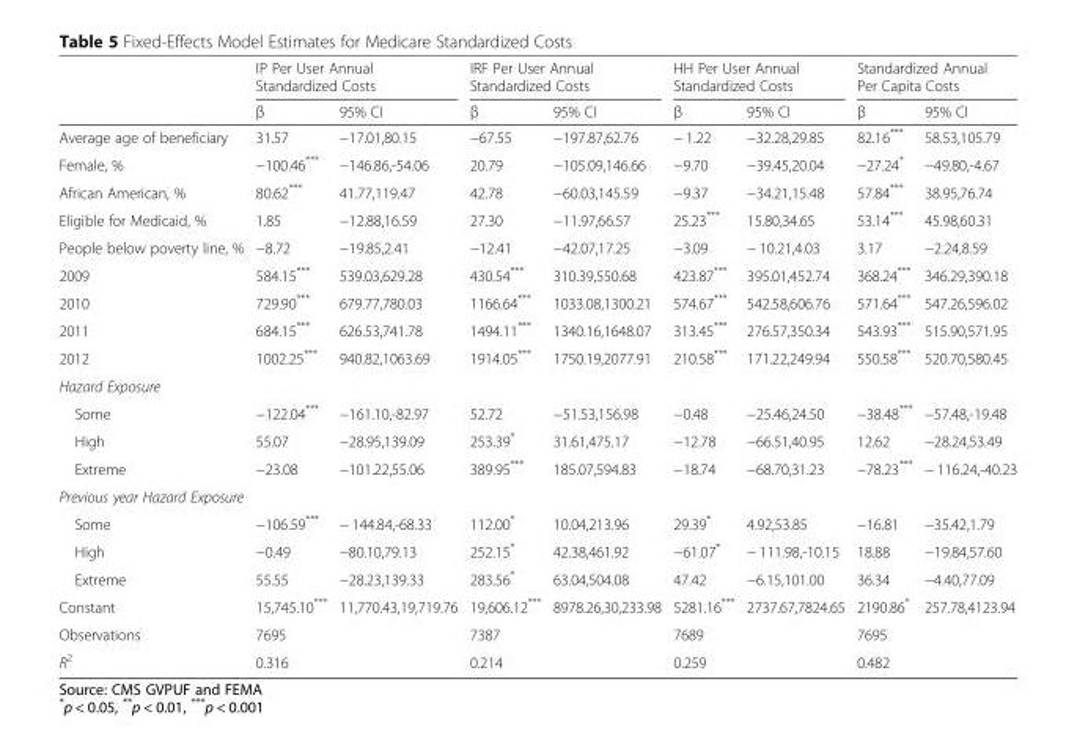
<table><thead><tr><td rowspan="2"></td><td colspan="2">IP Per User Annual Standardized Costs</td><td colspan="2">IRF Per User Annual Standardized Costs</td><td colspan="2">HH Per User Annual Standardized Costs</td><td colspan="2">Standardized Annual Per Capita Costs</td></tr><tr><td>β</td><td>95% CI</td><td>β</td><td>95% CI</td><td>β</td><td>95% CI</td><td>β</td><td>95% CI</td></tr></thead><tbody><tr><td>Average age of beneficiary</td><td>31.57</td><td>−17.01,80.15</td><td>−67.55</td><td>−197.87,62.76</td><td>− 1.22</td><td>−32.28,29.85</td><td>82.16***</td><td>58.53,105.79</td></tr><tr><td>Female, %</td><td>−100.46***</td><td>−146.86,-54.06</td><td>20.79</td><td>−105.09,146.66</td><td>−9.70</td><td>−39.45,20.04</td><td>−27.24*</td><td>−49.80,-4.67</td></tr><tr><td>African American, %</td><td>80.62***</td><td>41.77,119.47</td><td>42.78</td><td>−60.03,145.59</td><td>−9.37</td><td>−34.21,15.48</td><td>57.84***</td><td>38.95,76.74</td></tr><tr><td>Eligible for Medicaid, %</td><td>1.85</td><td>−12.88,16.59</td><td>27.30</td><td>−11.97,66.57</td><td>25.23***</td><td>15.80,34.65</td><td>53.14***</td><td>45.98,60.31</td></tr><tr><td>People below poverty line, %</td><td>−8.72</td><td>−19.85,2.41</td><td>−12.41</td><td>−42.07,17.25</td><td>−3.09</td><td>− 10.21,4.03</td><td>3.17</td><td>−2.24,8.59</td></tr><tr><td>2009</td><td>584.15***</td><td>539.03,629.28</td><td>430.54***</td><td>310.39,550.68</td><td>423.87***</td><td>395.01,452.74</td><td>368.24***</td><td>346.29,390.18</td></tr><tr><td>2010</td><td>729.90***</td><td>679.77,780.03</td><td>1166.64***</td><td>1033.08,1300.21</td><td>574.67***</td><td>542.58,606.76</td><td>571.64***</td><td>547.26,596.02</td></tr><tr><td>2011</td><td>684.15***</td><td>626.53,741.78</td><td>1494.11***</td><td>1340.16,1648.07</td><td>313.45***</td><td>276.57,350.34</td><td>543.93***</td><td>515.90,571.95</td></tr><tr><td>2012</td><td>1002.25***</td><td>940.82,1063.69</td><td>1914.05***</td><td>1750.19,2077.91</td><td>210.58***</td><td>171.22,249.94</td><td>550.58***</td><td>520.70,580.45</td></tr><tr><td colspan="9">Hazard Exposure</td></tr><tr><td>Some</td><td>−122.04***</td><td>−161.10,-82.97</td><td>52.72</td><td>−51.53,156.98</td><td>−0.48</td><td>−25.46,24.50</td><td>−38.48***</td><td>−57.48,-19.48</td></tr><tr><td>High</td><td>55.07</td><td>−28.95,139.09</td><td>253.39*</td><td>31.61,475.17</td><td>−12.78</td><td>−66.51,40.95</td><td>12.62</td><td>−28.24,53.49</td></tr><tr><td>Extreme</td><td>−23.08</td><td>−101.22,55.06</td><td>389.95***</td><td>185.07,594.83</td><td>−18.74</td><td>−68.70,31.23</td><td>−78.23***</td><td>− 116.24,-40.23</td></tr><tr><td colspan="9">Previous year Hazard Exposure</td></tr><tr><td>Some</td><td>−106.59***</td><td>− 144.84,-68.33</td><td>112.00*</td><td>10.04,213.96</td><td>29.39*</td><td>4.92,53.85</td><td>−16.81</td><td>−35.42,1.79</td></tr><tr><td>High</td><td>−0.49</td><td>−80.10,79.13</td><td>252.15*</td><td>42.38,461.92</td><td>−61.07*</td><td>− 111.98,-10.15</td><td>18.88</td><td>−19.84,57.60</td></tr><tr><td>Extreme</td><td>55.55</td><td>−28.23,139.33</td><td>283.56*</td><td>63.04,504.08</td><td>47.42</td><td>−6.15,101.00</td><td>36.34</td><td>−4.40,77.09</td></tr><tr><td>Constant</td><td>15,745.10***</td><td>11,770.43,19,719.76</td><td>19,606.12***</td><td>8978.26,30,233.98</td><td>5281.16***</td><td>2737.67,7824.65</td><td>2190.86*</td><td>257.78,4123.94</td></tr><tr><td>Observations</td><td>7695</td><td></td><td>7387</td><td></td><td>7689</td><td></td><td>7695</td><td></td></tr><tr><td>R<sup>2</sup></td><td>0.316</td><td></td><td>0.214</td><td></td><td>0.259</td><td></td><td>0.482</td><td></td></tr></tbody></table>